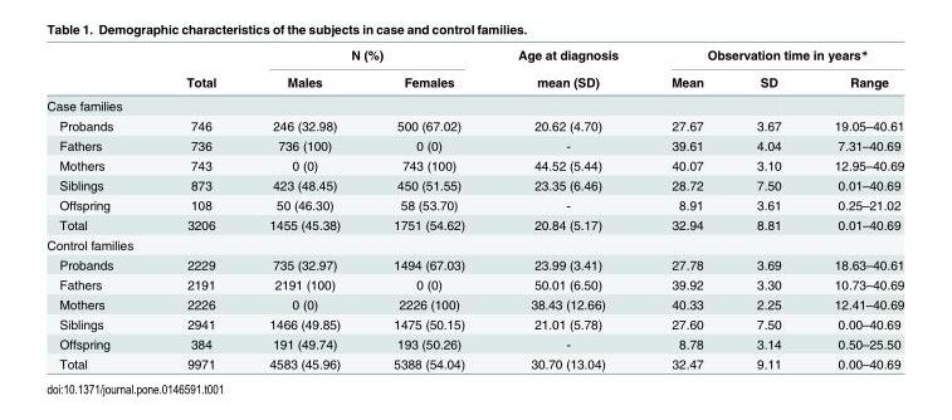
<table><thead><tr><td rowspan="2"></td><td rowspan="2">Total</td><td colspan="2">N (%)</td><td rowspan="2">Age at diagnosis mean (SD)</td><td colspan="3">Observation time in years*</td></tr><tr><td>Males</td><td>Females</td><td>Mean</td><td>SD</td><td>Range</td></tr></thead><tbody><tr><td colspan="8">Case families</td></tr><tr><td>Probands</td><td>746</td><td>246 (32.98)</td><td>500 (67.02)</td><td>20.62 (4.70)</td><td>27.67</td><td>3.67</td><td>19.05–40.61</td></tr><tr><td>Fathers</td><td>736</td><td>736 (100)</td><td>0 (0)</td><td>-</td><td>39.61</td><td>4.04</td><td>7.31–40.69</td></tr><tr><td>Mothers</td><td>743</td><td>0 (0)</td><td>743 (100)</td><td>44.52 (5.44)</td><td>40.07</td><td>3.10</td><td>12.95–40.69</td></tr><tr><td>Siblings</td><td>873</td><td>423 (48.45)</td><td>450 (51.55)</td><td>23.35 (6.46)</td><td>28.72</td><td>7.50</td><td>0.01–40.69</td></tr><tr><td>Offspring</td><td>108</td><td>50 (46.30)</td><td>58 (53.70)</td><td>-</td><td>8.91</td><td>3.61</td><td>0.25–21.02</td></tr><tr><td>Total</td><td>3206</td><td>1455 (45.38)</td><td>1751 (54.62)</td><td>20.84 (5.17)</td><td>32.94</td><td>8.81</td><td>0.01–40.69</td></tr><tr><td colspan="8">Control families</td></tr><tr><td>Probands</td><td>2229</td><td>735 (32.97)</td><td>1494 (67.03)</td><td>23.99 (3.41)</td><td>27.78</td><td>3.69</td><td>18.63–40.61</td></tr><tr><td>Fathers</td><td>2191</td><td>2191 (100)</td><td>0 (0)</td><td>50.01 (6.50)</td><td>39.92</td><td>3.30</td><td>10.73–40.69</td></tr><tr><td>Mothers</td><td>2226</td><td>0 (0)</td><td>2226 (100)</td><td>38.43 (12.66)</td><td>40.33</td><td>2.25</td><td>12.41–40.69</td></tr><tr><td>Siblings</td><td>2941</td><td>1466 (49.85)</td><td>1475 (50.15)</td><td>21.01 (5.78)</td><td>27.60</td><td>7.50</td><td>0.00–40.69</td></tr><tr><td>Offspring</td><td>384</td><td>191 (49.74)</td><td>193 (50.26)</td><td>-</td><td>8.78</td><td>3.14</td><td>0.50–25.50</td></tr><tr><td>Total</td><td>9971</td><td>4583 (45.96)</td><td>5388 (54.04)</td><td>30.70 (13.04)</td><td>32.47</td><td>9.11</td><td>0.00–40.69</td></tr></tbody></table>